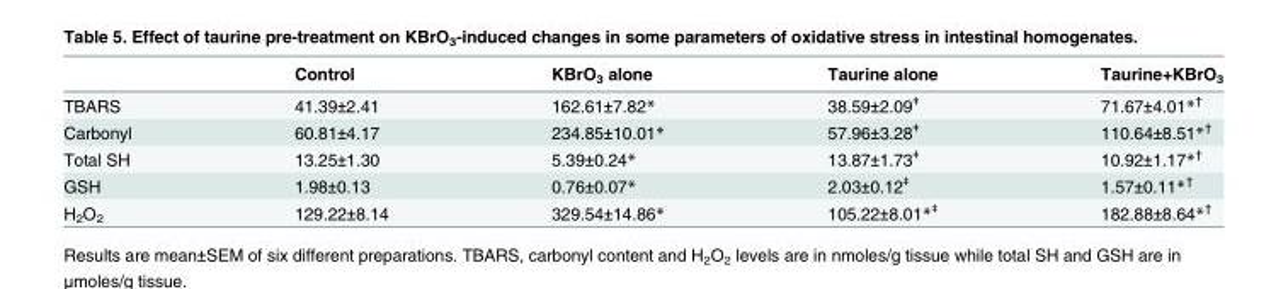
<table><thead><tr><td></td><td>Control</td><td>KBrO<sub>3</sub> alone</td><td>Taurine alone</td><td>Taurine+KBrO<sub>3</sub></td></tr></thead><tbody><tr><td>TBARS</td><td>41.39±2.41</td><td>162.61±7.82*</td><td>38.59±2.09<sup>ǂ</sup></td><td>71.67±4.01*<sup>†</sup></td></tr><tr><td>Carbonyl</td><td>60.81±4.17</td><td>234.85±10.01*</td><td>57.96±3.28<sup>ǂ</sup></td><td>110.64±8.51*<sup>†</sup></td></tr><tr><td>Total SH</td><td>13.25±1.30</td><td>5.39±0.24*</td><td>13.87±1.73<sup>ǂ</sup></td><td>10.92±1.17*<sup>†</sup></td></tr><tr><td>GSH</td><td>1.98±0.13</td><td>0.76±0.07*</td><td>2.03±0.12<sup>ǂ</sup></td><td>1.57±0.11*<sup>†</sup></td></tr><tr><td>H<sub>2</sub>O<sub>2</sub></td><td>129.22±8.14</td><td>329.54±14.86*</td><td>105.22±8.01*<sup>ǂ</sup></td><td>182.88±8.64*<sup>†</sup></td></tr></tbody></table>